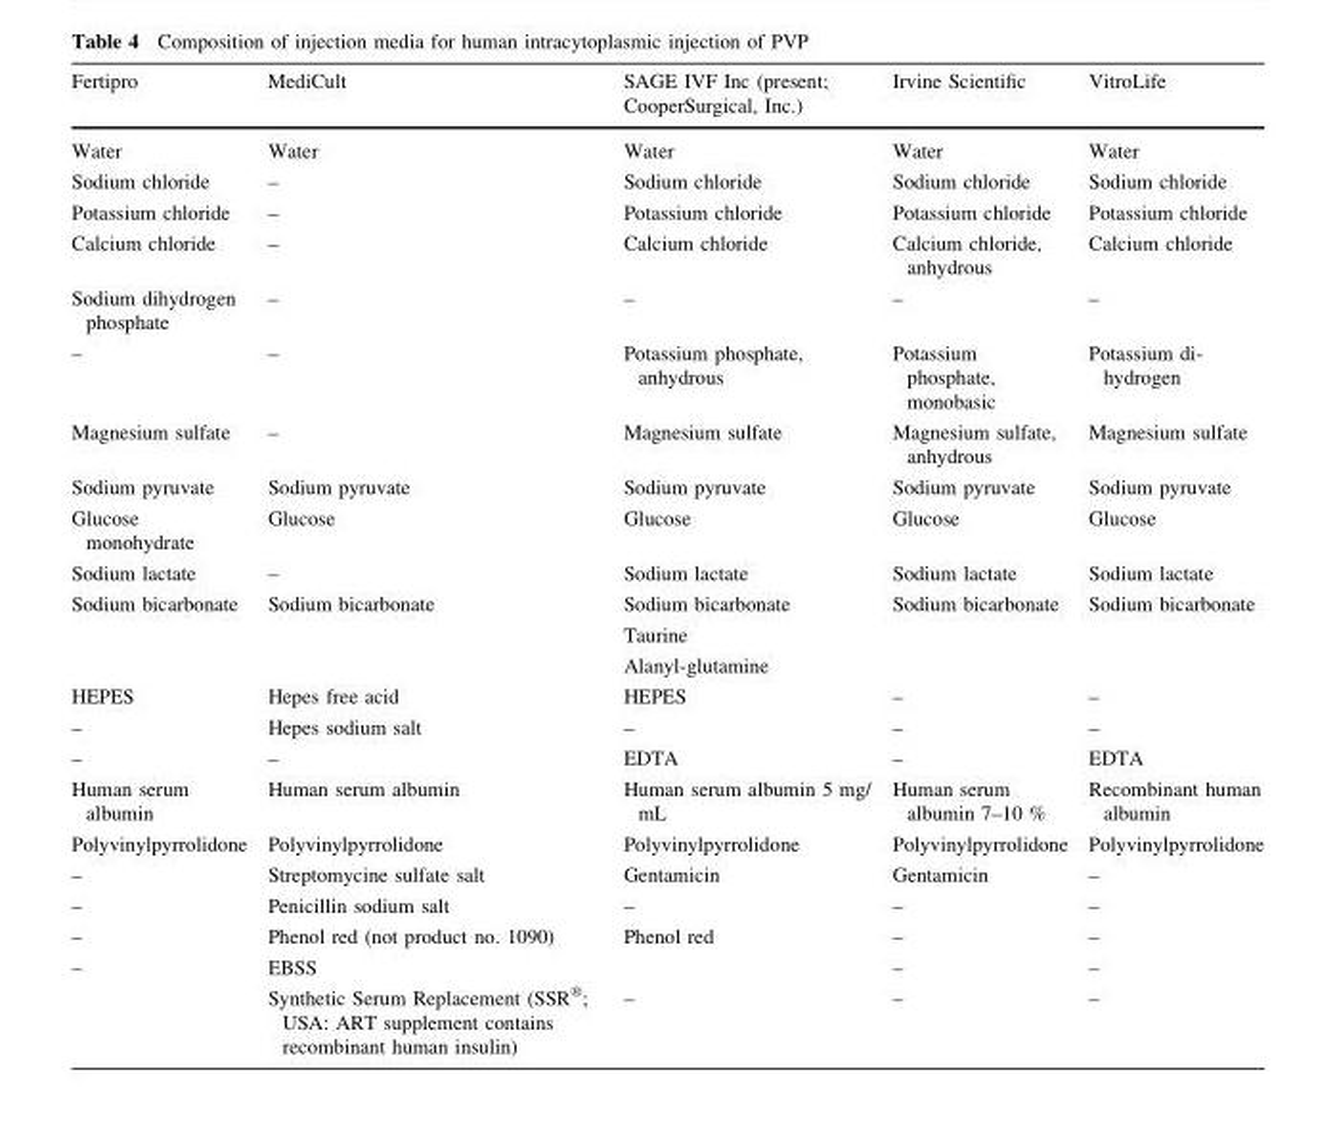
<table><thead><tr><td>Fertipro</td><td>MediCult</td><td>SAGE IVF Inc (present; CooperSurgical, Inc.)</td><td>Irvine Scientific</td><td>VitroLife</td></tr></thead><tbody><tr><td>Water</td><td>Water</td><td>Water</td><td>Water</td><td>Water</td></tr><tr><td>Sodium chloride</td><td>–</td><td>Sodium chloride</td><td>Sodium chloride</td><td>Sodium chloride</td></tr><tr><td>Potassium chloride</td><td>–</td><td>Potassium chloride</td><td>Potassium chloride</td><td>Potassium chloride</td></tr><tr><td>Calcium chloride</td><td>–</td><td>Calcium chloride</td><td>Calcium chloride, anhydrous</td><td>Calcium chloride</td></tr><tr><td>Sodium dihydrogen phosphate</td><td>–</td><td>–</td><td>–</td><td>–</td></tr><tr><td>–</td><td>–</td><td>Potassium phosphate, anhydrous</td><td>Potassium phosphate, monobasic</td><td>Potassium di- hydrogen</td></tr><tr><td>Magnesium sulfate</td><td>–</td><td>Magnesium sulfate</td><td>Magnesium sulfate, anhydrous</td><td>Magnesium sulfate</td></tr><tr><td>Sodium pyruvate</td><td>Sodium pyruvate</td><td>Sodium pyruvate</td><td>Sodium pyruvate</td><td>Sodium pyruvate</td></tr><tr><td>Glucose monohydrate</td><td>Glucose</td><td>Glucose</td><td>Glucose</td><td>Glucose</td></tr><tr><td>Sodium lactate</td><td>–</td><td>Sodium lactate</td><td>Sodium lactate</td><td>Sodium lactate</td></tr><tr><td rowspan="3">Sodium bicarbonate</td><td>Sodium bicarbonate</td><td>Sodium bicarbonate</td><td>Sodium bicarbonate</td><td>Sodium bicarbonate</td></tr><tr><td></td><td>Taurine</td><td></td><td></td></tr><tr><td></td><td>Alanyl-glutamine</td><td></td><td></td></tr><tr><td>HEPES</td><td>Hepes free acid</td><td>HEPES</td><td>–</td><td>–</td></tr><tr><td>–</td><td>Hepes sodium salt</td><td>–</td><td>–</td><td>–</td></tr><tr><td>–</td><td>–</td><td>EDTA</td><td>–</td><td>EDTA</td></tr><tr><td>Human serum albumin</td><td>Human serum albumin</td><td>Human serum albumin 5 mg/ mL</td><td>Human serum albumin 7–10 %</td><td>Recombinant human albumin</td></tr><tr><td>Polyvinylpyrrolidone</td><td>Polyvinylpyrrolidone</td><td>Polyvinylpyrrolidone</td><td>Polyvinylpyrrolidone</td><td>Polyvinylpyrrolidone</td></tr><tr><td>–</td><td>Streptomycine sulfate salt</td><td>Gentamicin</td><td>Gentamicin</td><td>–</td></tr><tr><td>–</td><td>Penicillin sodium salt</td><td>–</td><td>–</td><td>–</td></tr><tr><td>–</td><td>Phenol red (not product no. 1090)</td><td>Phenol red</td><td>–</td><td>–</td></tr><tr><td rowspan="2">–</td><td>EBSS</td><td></td><td>–</td><td>–</td></tr><tr><td>Synthetic Serum Replacement (SSR<sup>®</sup>; USA: ART supplement contains recombinant human insulin)</td><td>–</td><td>–</td><td>–</td></tr></tbody></table>